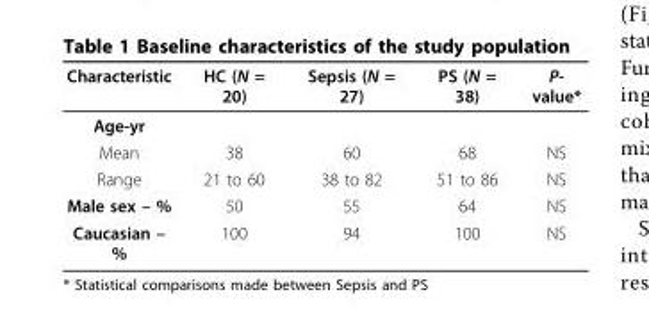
<table><thead><tr><td>Characteristic</td><td>HC (N = 20)</td><td>Sepsis (N = 27)</td><td>PS (N = 38)</td><td>P- value*</td></tr></thead><tbody><tr><td colspan="5">Age-yr</td></tr><tr><td>Mean</td><td>38</td><td>60</td><td>68</td><td>NS</td></tr><tr><td>Range</td><td>21 to 60</td><td>38 to 82</td><td>51 to 86</td><td>NS</td></tr><tr><td>Male sex – %</td><td>50</td><td>55</td><td>64</td><td>NS</td></tr><tr><td>Caucasian – %</td><td>100</td><td>94</td><td>100</td><td>NS</td></tr></tbody></table>